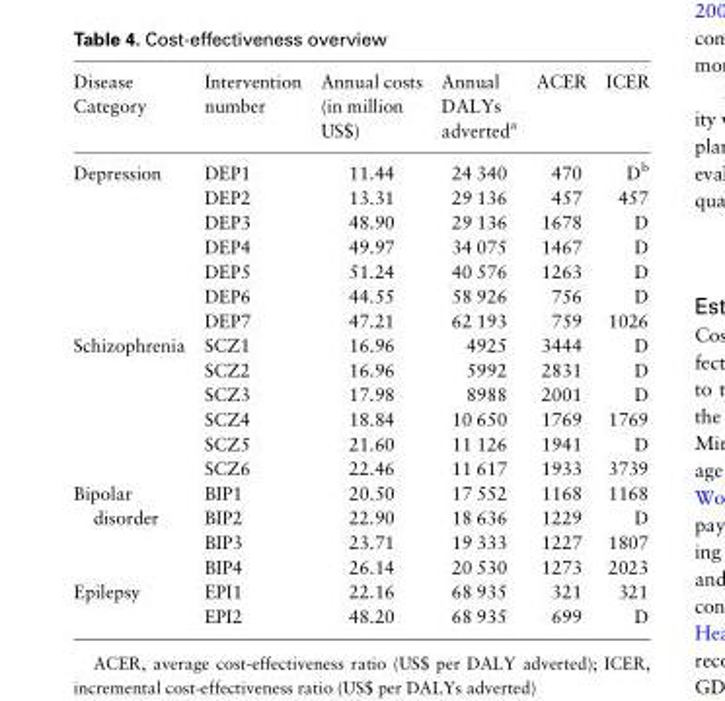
<table><thead><tr><td>Disease Category</td><td>Intervention number</td><td>Annual costs (in million US$)</td><td>Annual DALYs adverted<sup>a</sup></td><td>ACER</td><td>ICER</td></tr></thead><tbody><tr><td rowspan="7">Depression</td><td>DEP1</td><td>11.44</td><td>24 340</td><td>470</td><td>D<sup>b</sup></td></tr><tr><td>DEP2</td><td>13.31</td><td>29 136</td><td>457</td><td>457</td></tr><tr><td>DEP3</td><td>48.90</td><td>29 136</td><td>1678</td><td>D</td></tr><tr><td>DEP4</td><td>49.97</td><td>34 075</td><td>1467</td><td>D</td></tr><tr><td>DEP5</td><td>51.24</td><td>40 576</td><td>1263</td><td>D</td></tr><tr><td>DEP6</td><td>44.55</td><td>58 926</td><td>756</td><td>D</td></tr><tr><td>DEP7</td><td>47.21</td><td>62 193</td><td>759</td><td>1026</td></tr><tr><td rowspan="6">Schizophrenia</td><td>SCZ1</td><td>16.96</td><td>4925</td><td>3444</td><td>D</td></tr><tr><td>SCZ2</td><td>16.96</td><td>5992</td><td>2831</td><td>D</td></tr><tr><td>SCZ3</td><td>17.98</td><td>8988</td><td>2001</td><td>D</td></tr><tr><td>SCZ4</td><td>18.84</td><td>10 650</td><td>1769</td><td>1769</td></tr><tr><td>SCZ5</td><td>21.60</td><td>11 126</td><td>1941</td><td>D</td></tr><tr><td>SCZ6</td><td>22.46</td><td>11 617</td><td>1933</td><td>3739</td></tr><tr><td rowspan="4">Bipolar disorder</td><td>BIP1</td><td>20.50</td><td>17 552</td><td>1168</td><td>1168</td></tr><tr><td>BIP2</td><td>22.90</td><td>18 636</td><td>1229</td><td>D</td></tr><tr><td>BIP3</td><td>23.71</td><td>19 333</td><td>1227</td><td>1807</td></tr><tr><td>BIP4</td><td>26.14</td><td>20 530</td><td>1273</td><td>2023</td></tr><tr><td rowspan="2">Epilepsy</td><td>EPI1</td><td>22.16</td><td>68 935</td><td>321</td><td>321</td></tr><tr><td>EPI2</td><td>48.20</td><td>68 935</td><td>699</td><td>D</td></tr></tbody></table>